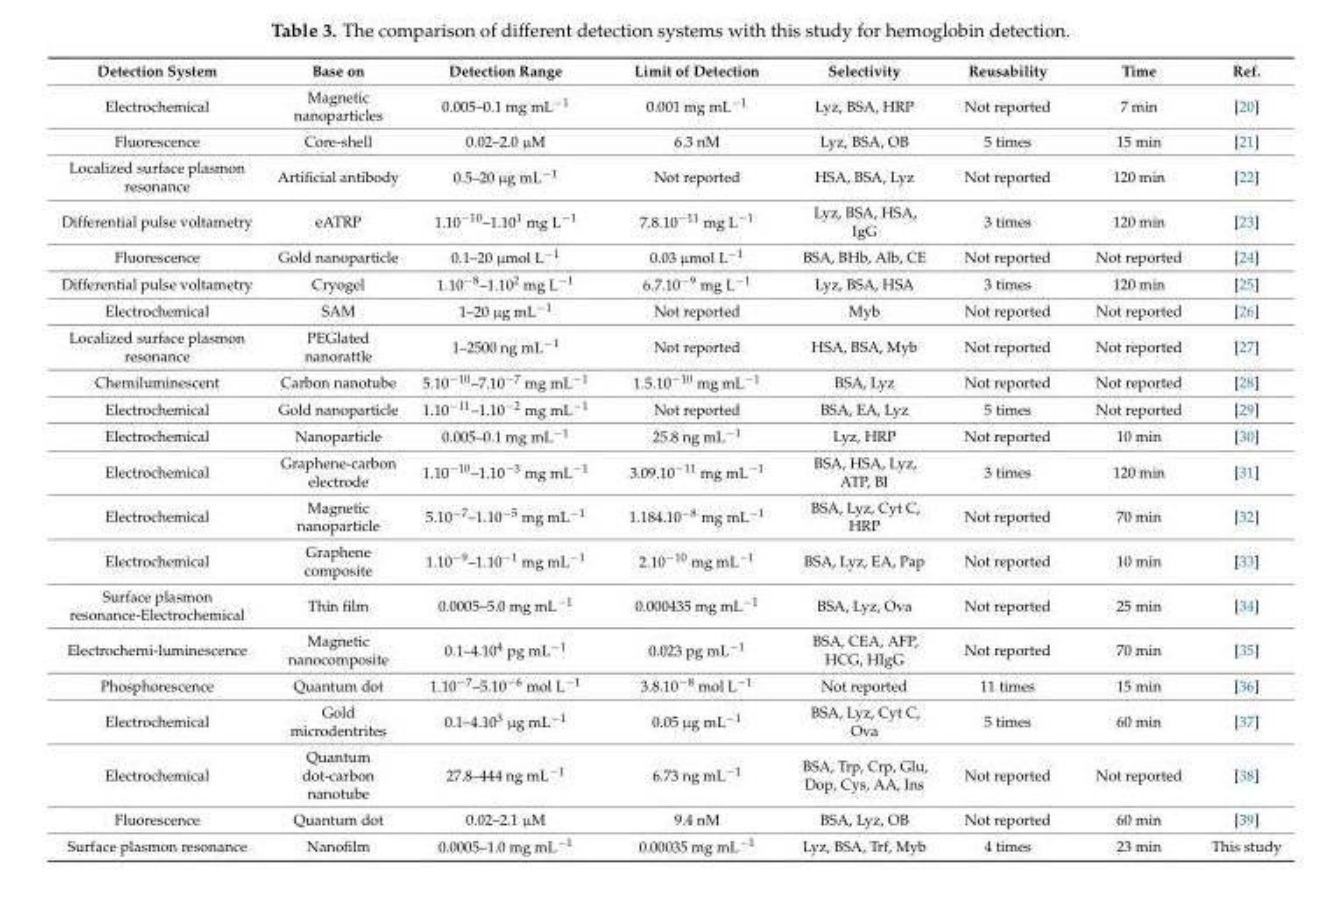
<table><thead><tr><td>Detection System</td><td>Base on</td><td>Detection Range</td><td>Limit of Detection</td><td>Selectivity</td><td>Reusability</td><td>Time</td><td>Ref.</td></tr></thead><tbody><tr><td>Electrochemical</td><td>Magnetic nanoparticles</td><td>0.005–0.1 mg mL<sup>−1</sup></td><td>0.001 mg mL<sup>−1</sup></td><td>Lyz, BSA, HRP</td><td>Not reported</td><td>7 min</td><td>[20]</td></tr><tr><td>Fluorescence</td><td>Core-shell</td><td>0.02–2.0 µM</td><td>6.3 nM</td><td>Lyz, BSA, OB</td><td>5 times</td><td>15 min</td><td>[21]</td></tr><tr><td>Localized surface plasmon resonance</td><td>Artificial antibody</td><td>0.5–20 µg mL<sup>−1</sup></td><td>Not reported</td><td>HSA, BSA, Lyz</td><td>Not reported</td><td>120 min</td><td>[22]</td></tr><tr><td>Differential pulse voltametry</td><td>eATRP</td><td>1.10<sup>−10</sup>–1.10<sup>1</sup> mg L<sup>−1</sup></td><td>7.8.10<sup>−11</sup> mg L<sup>−1</sup></td><td>Lyz, BSA, HSA, IgG</td><td>3 times</td><td>120 min</td><td>[23]</td></tr><tr><td>Fluorescence</td><td>Gold nanoparticle</td><td>0.1–20 µmol L<sup>−1</sup></td><td>0.03 µmol L<sup>−1</sup></td><td>BSA, BHb, Alb, CE</td><td>Not reported</td><td>Not reported</td><td>[24]</td></tr><tr><td>Differential pulse voltametry</td><td>Cryogel</td><td>1.10<sup>−8</sup>–1.10<sup>2</sup> mg L<sup>−1</sup></td><td>6.7.10<sup>−9</sup> mg L<sup>−1</sup></td><td>Lyz, BSA, HSA</td><td>3 times</td><td>120 min</td><td>[25]</td></tr><tr><td>Electrochemical</td><td>SAM</td><td>1–20 µg mL<sup>−1</sup></td><td>Not reported</td><td>Myb</td><td>Not reported</td><td>Not reported</td><td>[26]</td></tr><tr><td>Localized surface plasmon resonance</td><td>PEGlated nanorattle</td><td>1–2500 ng mL<sup>−1</sup></td><td>Not reported</td><td>HSA, BSA, Myb</td><td>Not reported</td><td>Not reported</td><td>[27]</td></tr><tr><td>Chemiluminescent</td><td>Carbon nanotube</td><td>5.10<sup>−10</sup>–7.10<sup>−7</sup> mg mL<sup>−1</sup></td><td>1.5.10<sup>−10</sup> mg mL<sup>−1</sup></td><td>BSA, Lyz</td><td>Not reported</td><td>Not reported</td><td>[28]</td></tr><tr><td>Electrochemical</td><td>Gold nanoparticle</td><td>1.10<sup>−11</sup>–1.10<sup>−2</sup> mg mL<sup>−1</sup></td><td>Not reported</td><td>BSA, EA, Lyz</td><td>5 times</td><td>Not reported</td><td>[29]</td></tr><tr><td>Electrochemical</td><td>Nanoparticle</td><td>0.005–0.1 mg mL<sup>−1</sup></td><td>25.8 ng mL<sup>−1</sup></td><td>Lyz, HRP</td><td>Not reported</td><td>10 min</td><td>[30]</td></tr><tr><td>Electrochemical</td><td>Graphene-carbon electrode</td><td>1.10<sup>−10</sup>–1.10<sup>−3</sup> mg mL<sup>−1</sup></td><td>3.09.10<sup>−11</sup> mg mL<sup>−1</sup></td><td>BSA, HSA, Lyz, ATP, BI</td><td>3 times</td><td>120 min</td><td>[31]</td></tr><tr><td>Electrochemical</td><td>Magnetic nanoparticle</td><td>5.10<sup>−7</sup>–1.10<sup>−5</sup> mg mL<sup>−1</sup></td><td>1.184.10<sup>−8</sup> mg mL<sup>−1</sup></td><td>BSA, Lyz, Cyt C, HRP</td><td>Not reported</td><td>70 min</td><td>[32]</td></tr><tr><td>Electrochemical</td><td>Graphene composite</td><td>1.10<sup>−9</sup>–1.10<sup>−1</sup> mg mL<sup>−1</sup></td><td>2.10<sup>−10</sup> mg mL<sup>−1</sup></td><td>BSA, Lyz, EA, Pap</td><td>Not reported</td><td>10 min</td><td>[33]</td></tr><tr><td>Surface plasmon resonance-Electrochemical</td><td>Thin film</td><td>0.0005–5.0 mg mL<sup>−1</sup></td><td>0.000435 mg mL<sup>−1</sup></td><td>BSA, Lyz, Ova</td><td>Not reported</td><td>25 min</td><td>[34]</td></tr><tr><td>Electrochemi-luminescence</td><td>Magnetic nanocomposite</td><td>0.1–4.10<sup>4</sup> pg mL<sup>−1</sup></td><td>0.023 pg mL<sup>−1</sup></td><td>BSA, CEA, AFP, HCG, HIgG</td><td>Not reported</td><td>70 min</td><td>[35]</td></tr><tr><td>Phosphorescence</td><td>Quantum dot</td><td>1.10<sup>−7</sup>–5.10<sup>−6</sup> mol L<sup>−1</sup></td><td>3.8.10<sup>−8</sup> mol L<sup>−1</sup></td><td>Not reported</td><td>11 times</td><td>15 min</td><td>[36]</td></tr><tr><td>Electrochemical</td><td>Gold microdentrites</td><td>0.1–4.10<sup>3</sup> µg mL<sup>−1</sup></td><td>0.05 µg mL<sup>−1</sup></td><td>BSA, Lyz, Cyt C, Ova</td><td>5 times</td><td>60 min</td><td>[37]</td></tr><tr><td>Electrochemical</td><td>Quantum dot-carbon nanotube</td><td>27.8–444 ng mL<sup>−1</sup></td><td>6.73 ng mL<sup>−1</sup></td><td>BSA, Trp, Crp, Glu, Dop, Cys, AA, Ins</td><td>Not reported</td><td>Not reported</td><td>[38]</td></tr><tr><td>Fluorescence</td><td>Quantum dot</td><td>0.02–2.1 µM</td><td>9.4 nM</td><td>BSA, Lyz, OB</td><td>Not reported</td><td>60 min</td><td>[39]</td></tr><tr><td>Surface plasmon resonance</td><td>Nanofilm</td><td>0.0005–1.0 mg mL<sup>−1</sup></td><td>0.00035 mg mL<sup>−1</sup></td><td>Lyz, BSA, Trf, Myb</td><td>4 times</td><td>23 min</td><td>This study</td></tr></tbody></table>